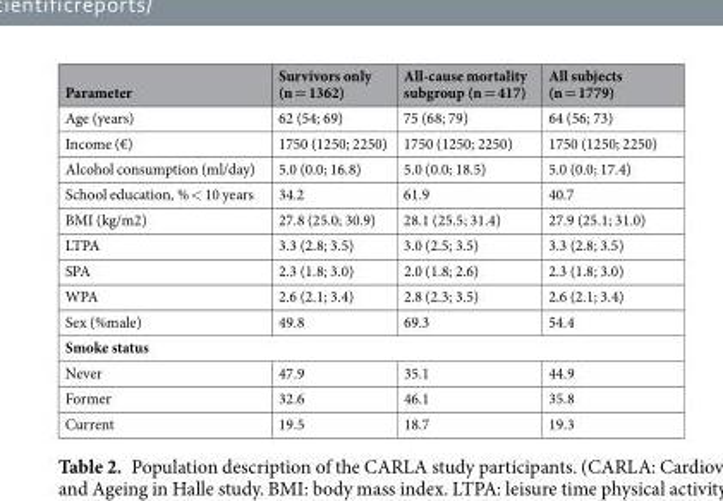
<table><thead><tr><td>Parameter</td><td>Survivors only (n = 1362)</td><td>All-cause mortality subgroup (n = 417)</td><td>All subjects (n = 1779)</td></tr></thead><tbody><tr><td>Age (years)</td><td>62 (54; 69)</td><td>75 (68; 79)</td><td>64 (56; 73)</td></tr><tr><td>Income (€)</td><td>1750 (1250; 2250)</td><td>1750 (1250; 2250)</td><td>1750 (1250; 2250)</td></tr><tr><td>Alcohol consumption (ml/day)</td><td>5.0 (0.0; 16.8)</td><td>5.0 (0.0; 18.5)</td><td>5.0 (0.0; 17.4)</td></tr><tr><td>School education, % &lt; 10 years</td><td>34.2</td><td>61.9</td><td>40.7</td></tr><tr><td>BMI (kg/m2)</td><td>27.8 (25.0; 30.9)</td><td>28.1 (25.5; 31.4)</td><td>27.9 (25.1; 31.0)</td></tr><tr><td>LTPA</td><td>3.3 (2.8; 3.5)</td><td>3.0 (2.5; 3.5)</td><td>3.3 (2.8; 3.5)</td></tr><tr><td>SPA</td><td>2.3 (1.8; 3.0)</td><td>2.0 (1.8; 2.6)</td><td>2.3 (1.8; 3.0)</td></tr><tr><td>WPA</td><td>2.6 (2.1; 3.4)</td><td>2.8 (2.3; 3.5)</td><td>2.6 (2.1; 3.4)</td></tr><tr><td>Sex (%male)</td><td>49.8</td><td>69.3</td><td>54.4</td></tr><tr><td colspan="4">Smoke status</td></tr><tr><td>Never</td><td>47.9</td><td>35.1</td><td>44.9</td></tr><tr><td>Former</td><td>32.6</td><td>46.1</td><td>35.8</td></tr><tr><td>Current</td><td>19.5</td><td>18.7</td><td>19.3</td></tr></tbody></table>